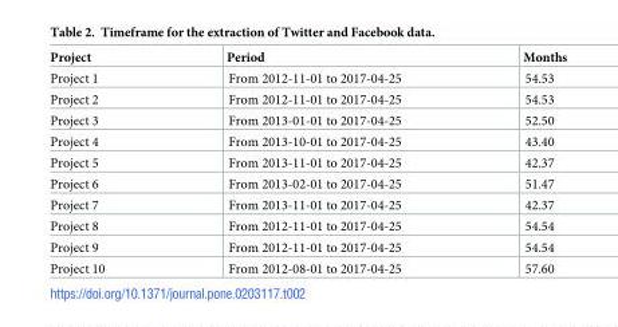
<table><thead><tr><td>Project</td><td>Period</td><td>Months</td></tr></thead><tbody><tr><td>Project 1</td><td>From 2012-11-01 to 2017-04-25</td><td>54.53</td></tr><tr><td>Project 2</td><td>From 2012-11-01 to 2017-04-25</td><td>54.53</td></tr><tr><td>Project 3</td><td>From 2013-01-01 to 2017-04-25</td><td>52.50</td></tr><tr><td>Project 4</td><td>From 2013-10-01 to 2017-04-25</td><td>43.40</td></tr><tr><td>Project 5</td><td>From 2013-11-01 to 2017-04-25</td><td>42.37</td></tr><tr><td>Project 6</td><td>From 2013-02-01 to 2017-04-25</td><td>51.47</td></tr><tr><td>Project 7</td><td>From 2013-11-01 to 2017-04-25</td><td>42.37</td></tr><tr><td>Project 8</td><td>From 2012-11-01 to 2017-04-25</td><td>54.54</td></tr><tr><td>Project 9</td><td>From 2012-11-01 to 2017-04-25</td><td>54.54</td></tr><tr><td>Project 10</td><td>From 2012-08-01 to 2017-04-25</td><td>57.60</td></tr></tbody></table>